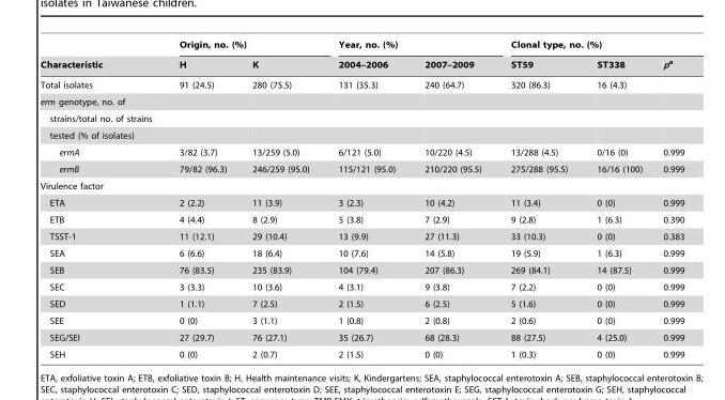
<table><thead><tr><td rowspan="2">Characteristic</td><td colspan="2">Origin, no. (%)</td><td colspan="2">Year, no. (%)</td><td colspan="3">Clonal type, no. (%)</td></tr><tr><td>H</td><td>K</td><td>2004–2006</td><td>2007–2009</td><td>ST59</td><td>ST338</td><td>pa</td></tr></thead><tbody><tr><td>Total isolates</td><td>91 (24.5)</td><td>280 (75.5)</td><td>131 (35.3)</td><td>240 (64.7)</td><td>320 (86.3)</td><td>16 (4.3)</td><td></td></tr><tr><td colspan="8">erm genotype, no. of</td></tr><tr><td colspan="8">strains/total no. of strains</td></tr><tr><td colspan="8">tested (% of isolates)</td></tr><tr><td>ermA</td><td>3/82 (3.7)</td><td>13/259 (5.0)</td><td>6/121 (5.0)</td><td>10/220 (4.5)</td><td>13/288 (4.5)</td><td>0/16 (0)</td><td>0.999</td></tr><tr><td>ermB</td><td>79/82 (96.3)</td><td>246/259 (95.0)</td><td>115/121 (95.0)</td><td>210/220 (95.5)</td><td>275/288 (95.5)</td><td>16/16 (100)</td><td>0.999</td></tr><tr><td colspan="8">Virulence factor</td></tr><tr><td>ETA</td><td>2 (2.2)</td><td>11 (3.9)</td><td>3 (2.3)</td><td>10 (4.2)</td><td>11 (3.4)</td><td>0 (0)</td><td>0.999</td></tr><tr><td>ETB</td><td>4 (4.4)</td><td>8 (2.9)</td><td>5 (3.8)</td><td>7 (2.9)</td><td>9 (2.8)</td><td>1 (6.3)</td><td>0.390</td></tr><tr><td>TSST-1</td><td>11 (12.1)</td><td>29 (10.4)</td><td>13 (9.9)</td><td>27 (11.3)</td><td>33 (10.3)</td><td>0 (0)</td><td>0.383</td></tr><tr><td>SEA</td><td>6 (6.6)</td><td>18 (6.4)</td><td>10 (7.6)</td><td>14 (5.8)</td><td>19 (5.9)</td><td>1 (6.3)</td><td>0.999</td></tr><tr><td>SEB</td><td>76 (83.5)</td><td>235 (83.9)</td><td>104 (79.4)</td><td>207 (86.3)</td><td>269 (84.1)</td><td>14 (87.5)</td><td>0.999</td></tr><tr><td>SEC</td><td>3 (3.3)</td><td>10 (3.6)</td><td>4 (3.1)</td><td>9 (3.8)</td><td>7 (2.2)</td><td>0 (0)</td><td>0.999</td></tr><tr><td>SED</td><td>1 (1.1)</td><td>7 (2.5)</td><td>2 (1.5)</td><td>6 (2.5)</td><td>5 (1.6)</td><td>0 (0)</td><td>0.999</td></tr><tr><td>SEE</td><td>0 (0)</td><td>3 (1.1)</td><td>1 (0.8)</td><td>2 (0.8)</td><td>2 (0.6)</td><td>0 (0)</td><td>0.999</td></tr><tr><td>SEG/SEI</td><td>27 (29.7)</td><td>76 (27.1)</td><td>35 (26.7)</td><td>68 (28.3)</td><td>88 (27.5)</td><td>4 (25.0)</td><td>0.999</td></tr><tr><td>SEH</td><td>0 (0)</td><td>2 (0.7)</td><td>2 (1.5)</td><td>0 (0)</td><td>1 (0.3)</td><td>0 (0)</td><td>0.999</td></tr></tbody></table>